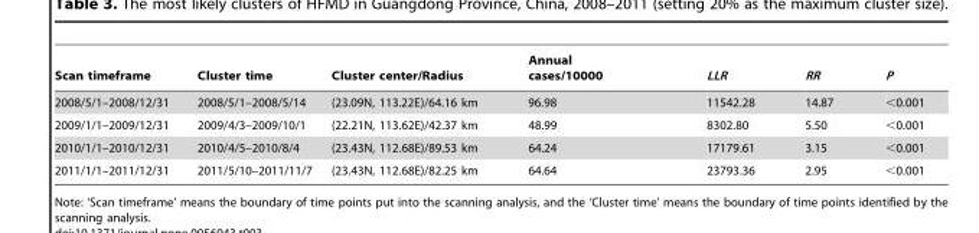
<table><thead><tr><td>Scan timeframe</td><td>Cluster time</td><td>Cluster center/Radius</td><td>Annual cases/10000</td><td>LLR</td><td>RR</td><td>P</td></tr></thead><tbody><tr><td>2008/5/1–2008/12/31</td><td>2008/5/1–2008/5/14</td><td>(23.09N, 113.22E)/64.16 km</td><td>96.98</td><td>11542.28</td><td>14.87</td><td>&lt;0.001</td></tr><tr><td>2009/1/1–2009/12/31</td><td>2009/4/3–2009/10/1</td><td>(22.21N, 113.62E)/42.37 km</td><td>48.99</td><td>8302.80</td><td>5.50</td><td>&lt;0.001</td></tr><tr><td>2010/1/1–2010/12/31</td><td>2010/4/5–2010/8/4</td><td>(23.43N, 112.68E)/89.53 km</td><td>64.24</td><td>17179.61</td><td>3.15</td><td>&lt;0.001</td></tr><tr><td>2011/1/1–2011/12/31</td><td>2011/5/10–2011/11/7</td><td>(23.43N, 112.68E)/82.25 km</td><td>64.64</td><td>23793.36</td><td>2.95</td><td>&lt;0.001</td></tr></tbody></table>